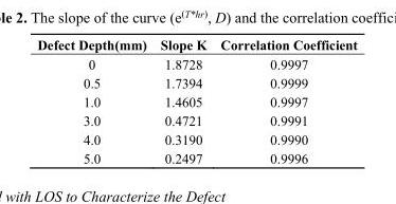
<table><thead><tr><td>Defect Depth(mm)</td><td>Slope K</td><td>Correlation Coefficient</td></tr></thead><tbody><tr><td>0</td><td>1.8728</td><td>0.9997</td></tr><tr><td>0.5</td><td>1.7394</td><td>0.9999</td></tr><tr><td>1.0</td><td>1.4605</td><td>0.9997</td></tr><tr><td>3.0</td><td>0.4721</td><td>0.9991</td></tr><tr><td>4.0</td><td>0.3190</td><td>0.9990</td></tr><tr><td>5.0</td><td>0.2497</td><td>0.9996</td></tr></tbody></table>